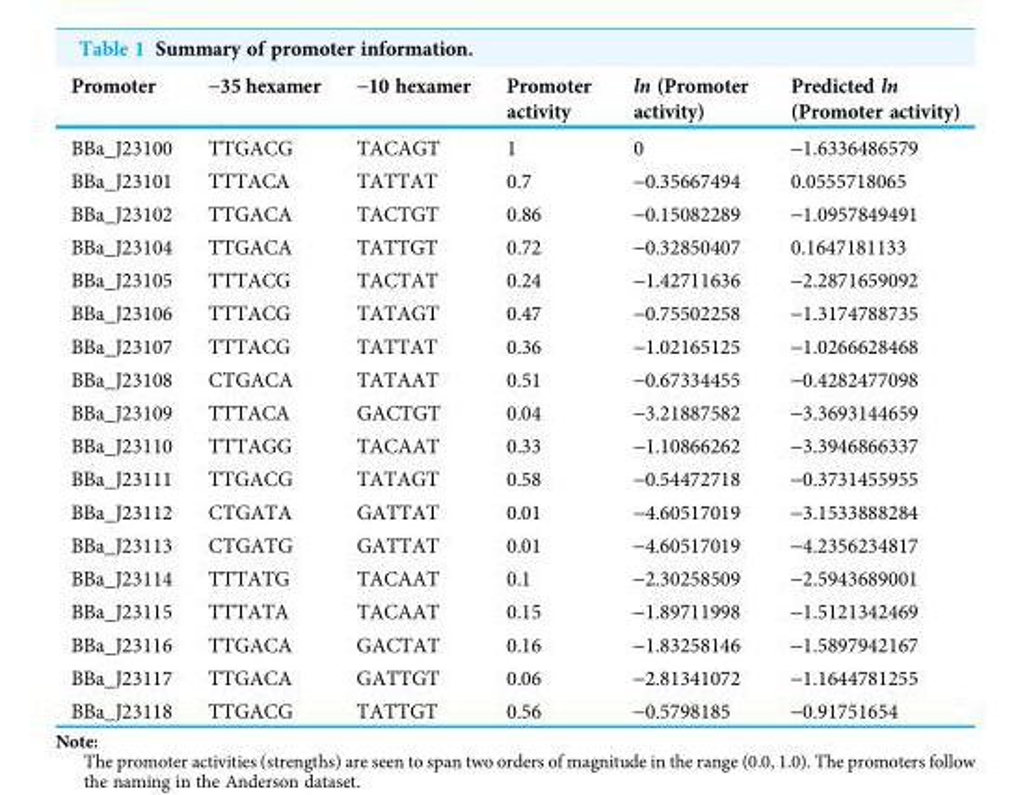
<table><thead><tr><td>Promoter</td><td>-35 hexamer</td><td>-10 hexamer</td><td>Promoter activity</td><td>ln (Promoter activity)</td><td>Predicted ln (Promoter activity)</td></tr></thead><tbody><tr><td>BBa_J23100</td><td>TTGACG</td><td>TACAGT</td><td>1</td><td>0</td><td>-1.6336486579</td></tr><tr><td>BBa_J23101</td><td>TTTACA</td><td>TATTAT</td><td>0.7</td><td>-0.35667494</td><td>0.0555718065</td></tr><tr><td>BBa_J23102</td><td>TTGACA</td><td>TACTGT</td><td>0.86</td><td>-0.15082289</td><td>-1.0957849491</td></tr><tr><td>BBa_J23104</td><td>TTGACA</td><td>TATTGT</td><td>0.72</td><td>-0.32850407</td><td>0.1647181133</td></tr><tr><td>BBa_J23105</td><td>TTTACG</td><td>TACTAT</td><td>0.24</td><td>-1.42711636</td><td>-2.2871659092</td></tr><tr><td>BBa_J23106</td><td>TTTACG</td><td>TATAGT</td><td>0.47</td><td>-0.75502258</td><td>-1.3174788735</td></tr><tr><td>BBa_J23107</td><td>TTTACG</td><td>TATTAT</td><td>0.36</td><td>-1.02165125</td><td>-1.0266628468</td></tr><tr><td>BBa_J23108</td><td>CTGACA</td><td>TATAAT</td><td>0.51</td><td>-0.67334455</td><td>-0.4282477098</td></tr><tr><td>BBa_J23109</td><td>TTTACA</td><td>GACTGT</td><td>0.04</td><td>-3.21887582</td><td>-3.3693144659</td></tr><tr><td>BBa_J23110</td><td>TTTAGG</td><td>TACAAT</td><td>0.33</td><td>-1.10866262</td><td>-3.3946866337</td></tr><tr><td>BBa_J23111</td><td>TTGACG</td><td>TATAGT</td><td>0.58</td><td>-0.54472718</td><td>-0.3731455955</td></tr><tr><td>BBa_J23112</td><td>CTGATA</td><td>GATTAT</td><td>0.01</td><td>-4.60517019</td><td>-3.1533888284</td></tr><tr><td>BBa_J23113</td><td>CTGATG</td><td>GATTAT</td><td>0.01</td><td>-4.60517019</td><td>-4.2356234817</td></tr><tr><td>BBa_J23114</td><td>TTTATG</td><td>TACAAT</td><td>0.1</td><td>-2.30258509</td><td>-2.5943689001</td></tr><tr><td>BBa_J23115</td><td>TTTATA</td><td>TACAAT</td><td>0.15</td><td>-1.89711998</td><td>-1.5121342469</td></tr><tr><td>BBa_J23116</td><td>TTGACA</td><td>GACTAT</td><td>0.16</td><td>-1.83258146</td><td>-1.5897942167</td></tr><tr><td>BBa_J23117</td><td>TTGACA</td><td>GATTGT</td><td>0.06</td><td>-2.81341072</td><td>-1.1644781255</td></tr><tr><td>BBa_J23118</td><td>TTGACG</td><td>TATTGT</td><td>0.56</td><td>-0.5798185</td><td>-0.91751654</td></tr></tbody></table>